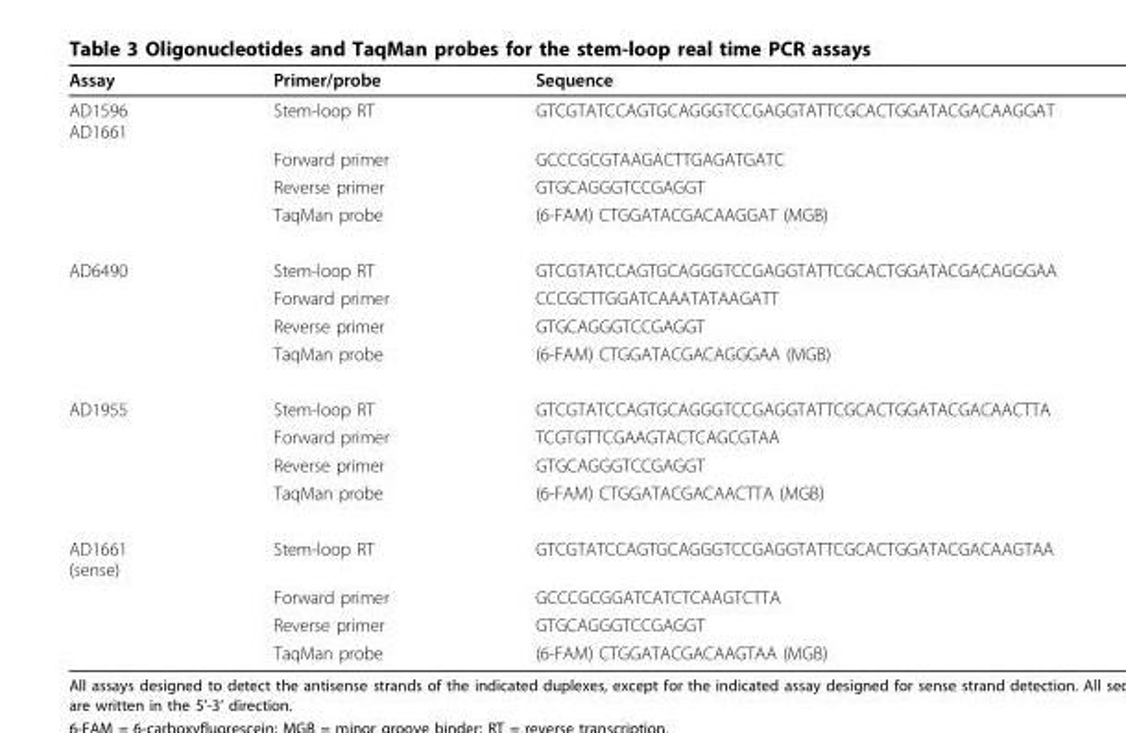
<table><thead><tr><td>Assay</td><td>Primer/probe</td><td>Sequence</td></tr></thead><tbody><tr><td rowspan="4">AD1596 AD1661</td><td>Stem-loop RT</td><td>GTCGTATCCAGTGCAGGGTCCGAGGTATTCGCACTGGATACGACAAGGAT</td></tr><tr><td>Forward primer</td><td>GCCCGCGTAAGACTTGAGATGATC</td></tr><tr><td>Reverse primer</td><td>GTGCAGGGTCCGAGGT</td></tr><tr><td>TaqMan probe</td><td>(6-FAM) CTGGATACGACAAGGAT (MGB)</td></tr><tr><td rowspan="4">AD6490</td><td>Stem-loop RT</td><td>GTCGTATCCAGTGCAGGGTCCGAGGTATTCGCACTGGATACGACAGGGAA</td></tr><tr><td>Forward primer</td><td>CCCGCTTGGATCAAATATAAGATT</td></tr><tr><td>Reverse primer</td><td>GTGCAGGGTCCGAGGT</td></tr><tr><td>TaqMan probe</td><td>(6-FAM) CTGGATACGACAGGGAA (MGB)</td></tr><tr><td rowspan="4">AD1955</td><td>Stem-loop RT</td><td>GTCGTATCCAGTGCAGGGTCCGAGGTATTCGCACTGGATACGACAACTTA</td></tr><tr><td>Forward primer</td><td>TCGTGTTCGAAGTACTCAGCGTAA</td></tr><tr><td>Reverse primer</td><td>GTGCAGGGTCCGAGGT</td></tr><tr><td>TaqMan probe</td><td>(6-FAM) CTGGATACGACAACTTA (MGB)</td></tr><tr><td rowspan="4">AD1661 (sense)</td><td>Stem-loop RT</td><td>GTCGTATCCAGTGCAGGGTCCGAGGTATTCGCACTGGATACGACAAGTAA</td></tr><tr><td>Forward primer</td><td>GCCCGCGGATCATCTCAAGTCTTA</td></tr><tr><td>Reverse primer</td><td>GTGCAGGGTCCGAGGT</td></tr><tr><td>TaqMan probe</td><td>(6-FAM) CTGGATACGACAAGTAA (MGB)</td></tr></tbody></table>